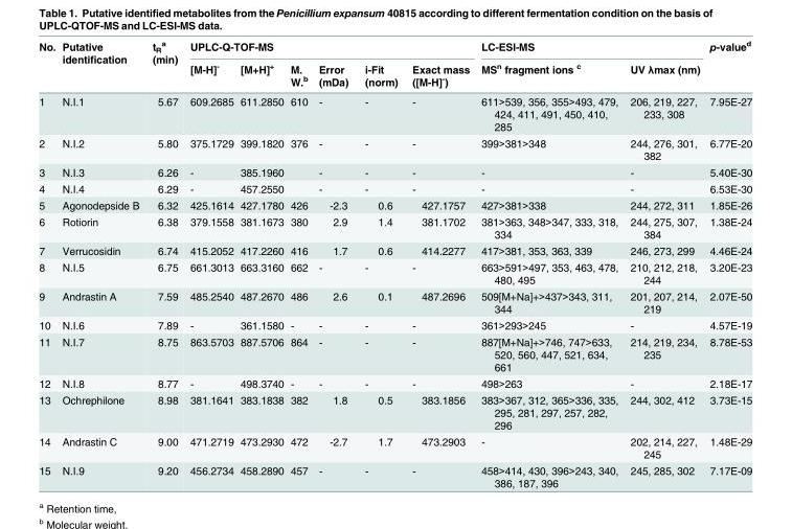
<table><thead><tr><td rowspan="2">No.</td><td rowspan="2">Putative identification</td><td rowspan="2">t<sub>R</sub> <sup>a</sup> (min)</td><td colspan="6">UPLC-Q-TOF-MS</td><td colspan="2">LC-ESI-MS</td><td rowspan="2">p-value<sup>d</sup></td></tr><tr><td>[M-H]<sup>-</sup></td><td>[M+H]<sup>+</sup></td><td>M. W.<sup>b</sup></td><td>Error (mDa)</td><td>i-Fit (norm)</td><td>Exact mass ([M-H]<sup>-</sup>)</td><td>MS<sup>n</sup> fragment ions <sup>c</sup></td><td>UV λmax (nm)</td></tr></thead><tbody><tr><td>1</td><td>N.I.1</td><td>5.67</td><td>609.2685</td><td>611.2850</td><td>610</td><td>-</td><td>-</td><td>-</td><td>611&gt;539, 356, 355&gt;493, 479, 424, 411, 491, 450, 410, 285</td><td>206, 219, 227, 233, 308</td><td>7.95E-27</td></tr><tr><td>2</td><td>N.I.2</td><td>5.80</td><td>375.1729</td><td>399.1820</td><td>376</td><td>-</td><td>-</td><td>-</td><td>399&gt;381&gt;348</td><td>244, 276, 301, 382</td><td>6.77E-20</td></tr><tr><td>3</td><td>N.I.3</td><td>6.26</td><td>-</td><td>385.1960</td><td></td><td>-</td><td>-</td><td>-</td><td>-</td><td>-</td><td>5.40E-30</td></tr><tr><td>4</td><td>N.I.4</td><td>6.29</td><td>-</td><td>457.2550</td><td></td><td>-</td><td>-</td><td>-</td><td>-</td><td>-</td><td>6.53E-30</td></tr><tr><td>5</td><td>Agonodepside B</td><td>6.32</td><td>425.1614</td><td>427.1780</td><td>426</td><td>-2.3</td><td>0.6</td><td>427.1757</td><td>427&gt;381&gt;338</td><td>244, 272, 311</td><td>1.85E-26</td></tr><tr><td>6</td><td>Rotiorin</td><td>6.38</td><td>379.1558</td><td>381.1673</td><td>380</td><td>2.9</td><td>1.4</td><td>381.1702</td><td>381&gt;363, 348&gt;347, 333, 318, 334</td><td>244, 275, 307, 384</td><td>1.38E-24</td></tr><tr><td>7</td><td>Verrucosidin</td><td>6.74</td><td>415.2052</td><td>417.2260</td><td>416</td><td>1.7</td><td>0.6</td><td>414.2277</td><td>417&gt;381, 353, 363, 339</td><td>246, 273, 299</td><td>4.46E-24</td></tr><tr><td>8</td><td>N.I.5</td><td>6.75</td><td>661.3013</td><td>663.3160</td><td>662</td><td>-</td><td>-</td><td>-</td><td>663&gt;591&gt;497, 353, 463, 478, 480, 495</td><td>210, 212, 218, 244</td><td>3.20E-23</td></tr><tr><td>9</td><td>Andrastin A</td><td>7.59</td><td>485.2540</td><td>487.2670</td><td>486</td><td>2.6</td><td>0.1</td><td>487.2696</td><td>509[M+Na]+&gt;437&gt;343, 311, 344</td><td>201, 207, 214, 219</td><td>2.07E-50</td></tr><tr><td>10</td><td>N.I.6</td><td>7.89</td><td>-</td><td>361.1580</td><td>-</td><td>-</td><td>-</td><td>-</td><td>361&gt;293&gt;245</td><td>-</td><td>4.57E-19</td></tr><tr><td>11</td><td>N.I.7</td><td>8.75</td><td>863.5703</td><td>887.5706</td><td>864</td><td>-</td><td>-</td><td>-</td><td>887[M+Na]+&gt;746, 747&gt;633, 520, 560, 447, 521, 634, 661</td><td>214, 219, 234, 235</td><td>8.78E-53</td></tr><tr><td>12</td><td>N.I.8</td><td>8.77</td><td>-</td><td>498.3740</td><td>-</td><td>-</td><td>-</td><td>-</td><td>498&gt;263</td><td>-</td><td>2.18E-17</td></tr><tr><td>13</td><td>Ochrephilone</td><td>8.98</td><td>381.1641</td><td>383.1838</td><td>382</td><td>1.8</td><td>0.5</td><td>383.1856</td><td>383&gt;367, 312, 365&gt;336, 335, 295, 281, 297, 257, 282, 296</td><td>244, 302, 412</td><td>3.73E-15</td></tr><tr><td>14</td><td>Andrastin C</td><td>9.00</td><td>471.2719</td><td>473.2930</td><td>472</td><td>-2.7</td><td>1.7</td><td>473.2903</td><td>-</td><td>202, 214, 227, 245</td><td>1.48E-29</td></tr><tr><td>15</td><td>N.I.9</td><td>9.20</td><td>456.2734</td><td>458.2890</td><td>457</td><td>-</td><td>-</td><td>-</td><td>458&gt;414, 430, 396&gt;243, 340, 386, 187, 396</td><td>245, 285, 302</td><td>7.17E-09</td></tr></tbody></table>